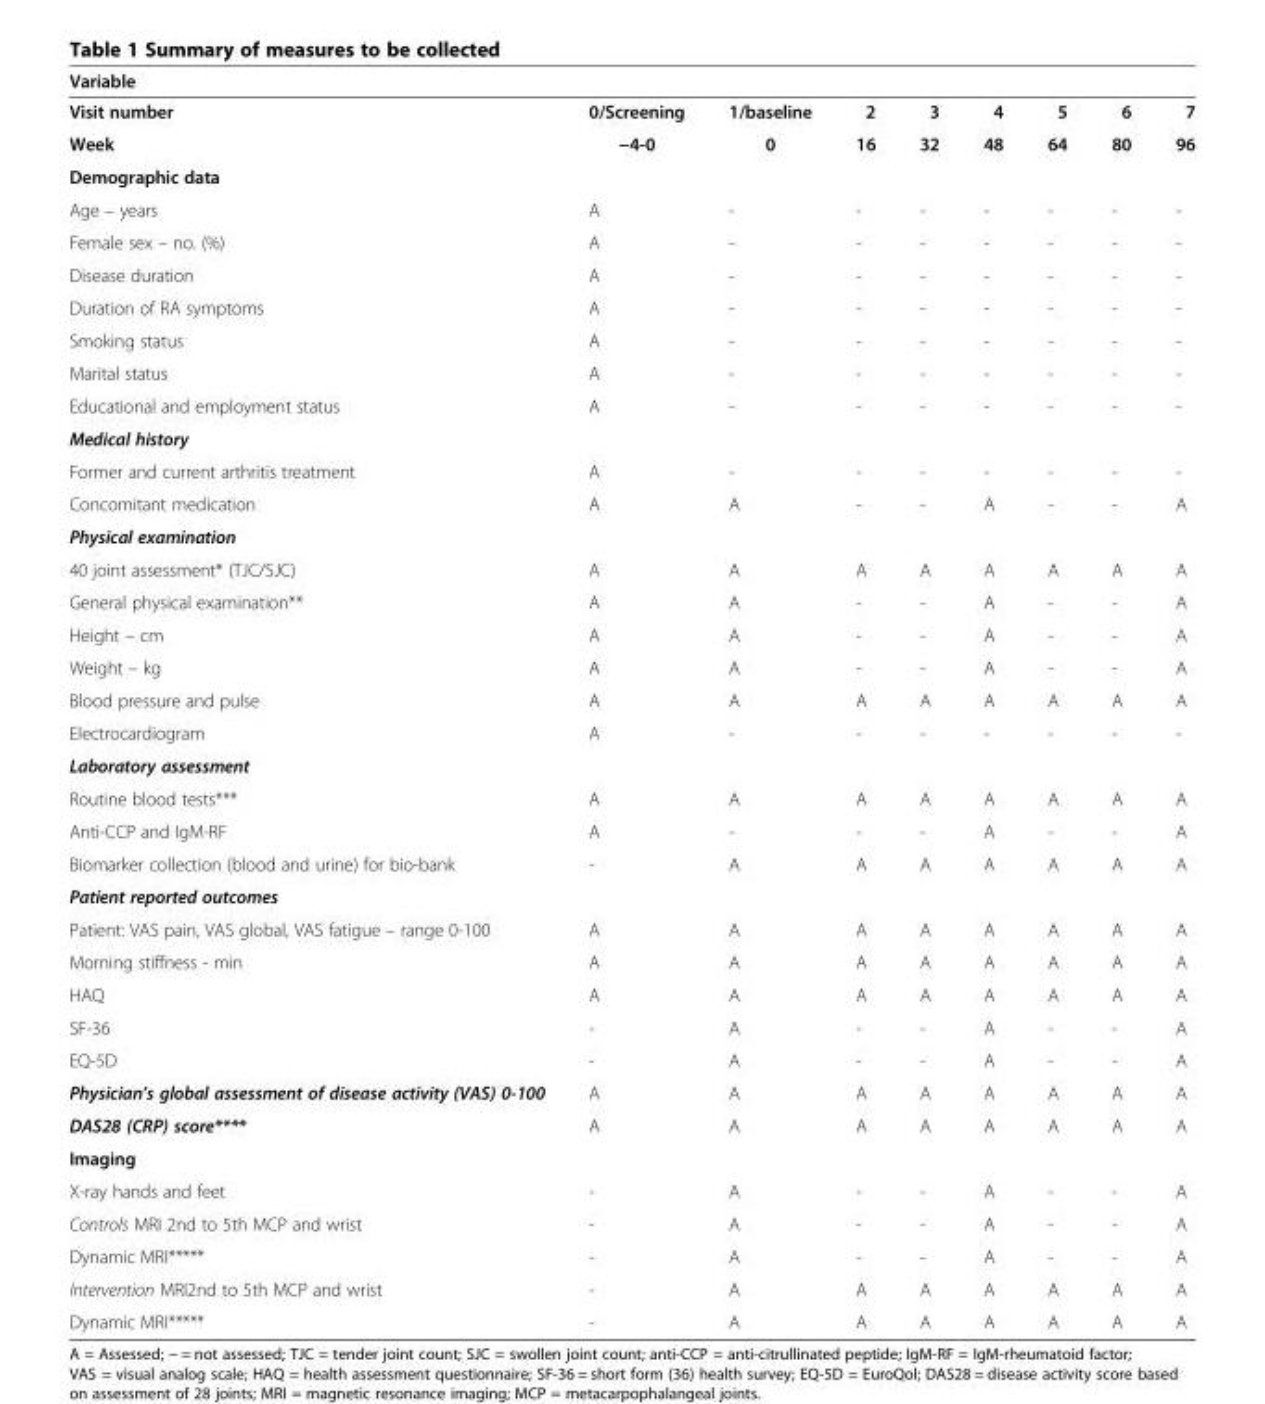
<table><thead><tr><td colspan="9">Variable</td></tr><tr><td>Visit number</td><td>0/Screening</td><td>1/baseline</td><td>2</td><td>3</td><td>4</td><td>5</td><td>6</td><td>7</td></tr></thead><tbody><tr><td>Week</td><td>−4-0</td><td>0</td><td>16</td><td>32</td><td>48</td><td>64</td><td>80</td><td>96</td></tr><tr><td colspan="9">Demographic data</td></tr><tr><td>Age – years</td><td>A</td><td>-</td><td>-</td><td>-</td><td>-</td><td>-</td><td>-</td><td>-</td></tr><tr><td>Female sex – no. (%)</td><td>A</td><td>-</td><td>-</td><td>-</td><td>-</td><td>-</td><td>-</td><td>-</td></tr><tr><td>Disease duration</td><td>A</td><td>-</td><td>-</td><td>-</td><td>-</td><td>-</td><td>-</td><td>-</td></tr><tr><td>Duration of RA symptoms</td><td>A</td><td>-</td><td>-</td><td>-</td><td>-</td><td>-</td><td>-</td><td>-</td></tr><tr><td>Smoking status</td><td>A</td><td>-</td><td>-</td><td>-</td><td>-</td><td>-</td><td>-</td><td>-</td></tr><tr><td>Marital status</td><td>A</td><td>-</td><td>-</td><td>-</td><td>-</td><td>-</td><td>-</td><td>-</td></tr><tr><td>Educational and employment status</td><td>A</td><td>-</td><td>-</td><td>-</td><td>-</td><td>-</td><td>-</td><td>-</td></tr><tr><td colspan="9">Medical history</td></tr><tr><td>Former and current arthritis treatment</td><td>A</td><td>-</td><td>-</td><td>-</td><td>-</td><td>-</td><td>-</td><td>-</td></tr><tr><td>Concomitant medication</td><td>A</td><td>A</td><td>-</td><td>-</td><td>A</td><td>-</td><td>-</td><td>A</td></tr><tr><td colspan="9">Physical examination</td></tr><tr><td>40 joint assessment* (TJC/SJC)</td><td>A</td><td>A</td><td>A</td><td>A</td><td>A</td><td>A</td><td>A</td><td>A</td></tr><tr><td>General physical examination**</td><td>A</td><td>A</td><td>-</td><td>-</td><td>A</td><td>-</td><td>-</td><td>A</td></tr><tr><td>Height – cm</td><td>A</td><td>A</td><td>-</td><td>-</td><td>A</td><td>-</td><td>-</td><td>A</td></tr><tr><td>Weight – kg</td><td>A</td><td>A</td><td>-</td><td>-</td><td>A</td><td>-</td><td>-</td><td>A</td></tr><tr><td>Blood pressure and pulse</td><td>A</td><td>A</td><td>A</td><td>A</td><td>A</td><td>A</td><td>A</td><td>A</td></tr><tr><td>Electrocardiogram</td><td>A</td><td>-</td><td>-</td><td>-</td><td>-</td><td>-</td><td>-</td><td>-</td></tr><tr><td colspan="9">Laboratory assessment</td></tr><tr><td>Routine blood tests***</td><td>A</td><td>A</td><td>A</td><td>A</td><td>A</td><td>A</td><td>A</td><td>A</td></tr><tr><td>Anti-CCP and IgM-RF</td><td>A</td><td>-</td><td>-</td><td>-</td><td>A</td><td>-</td><td>-</td><td>A</td></tr><tr><td>Biomarker collection (blood and urine) for bio-bank</td><td>-</td><td>A</td><td>A</td><td>A</td><td>A</td><td>A</td><td>A</td><td>A</td></tr><tr><td colspan="9">Patient reported outcomes</td></tr><tr><td>Patient: VAS pain, VAS global, VAS fatigue – range 0-100</td><td>A</td><td>A</td><td>A</td><td>A</td><td>A</td><td>A</td><td>A</td><td>A</td></tr><tr><td>Morning stiffness - min</td><td>A</td><td>A</td><td>A</td><td>A</td><td>A</td><td>A</td><td>A</td><td>A</td></tr><tr><td>HAQ</td><td>A</td><td>A</td><td>A</td><td>A</td><td>A</td><td>A</td><td>A</td><td>A</td></tr><tr><td>SF-36</td><td>-</td><td>A</td><td>-</td><td>-</td><td>A</td><td>-</td><td>-</td><td>A</td></tr><tr><td>EQ-5D</td><td>-</td><td>A</td><td>-</td><td>-</td><td>A</td><td>-</td><td>-</td><td>A</td></tr><tr><td>Physician’s global assessment of disease activity (VAS) 0-100</td><td>A</td><td>A</td><td>A</td><td>A</td><td>A</td><td>A</td><td>A</td><td>A</td></tr><tr><td>DAS28 (CRP) score****</td><td>A</td><td>A</td><td>A</td><td>A</td><td>A</td><td>A</td><td>A</td><td>A</td></tr><tr><td colspan="9">Imaging</td></tr><tr><td>X-ray hands and feet</td><td>-</td><td>A</td><td>-</td><td>-</td><td>A</td><td>-</td><td>-</td><td>A</td></tr><tr><td>Controls MRI 2nd to 5th MCP and wrist</td><td>-</td><td>A</td><td>-</td><td>-</td><td>A</td><td>-</td><td>-</td><td>A</td></tr><tr><td>Dynamic MRI*****</td><td>-</td><td>A</td><td>-</td><td>-</td><td>A</td><td>-</td><td>-</td><td>A</td></tr><tr><td>Intervention MRI2nd to 5th MCP and wrist</td><td>-</td><td>A</td><td>A</td><td>A</td><td>A</td><td>A</td><td>A</td><td>A</td></tr><tr><td>Dynamic MRI*****</td><td>-</td><td>A</td><td>A</td><td>A</td><td>A</td><td>A</td><td>A</td><td>A</td></tr></tbody></table>